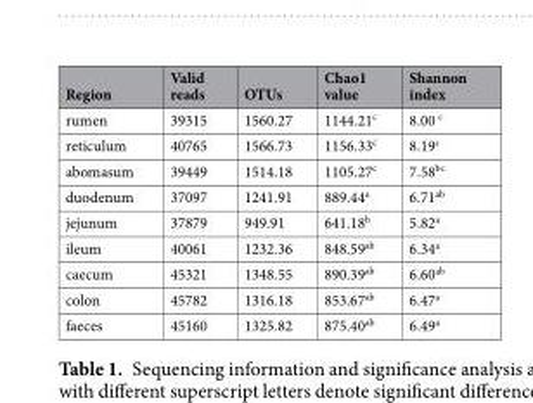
<table><thead><tr><td>Region</td><td>Valid reads</td><td>OTUs</td><td>Chao1 value</td><td>Shannon index</td></tr></thead><tbody><tr><td>rumen</td><td>39315</td><td>1560.27</td><td>1144.21<sup>c</sup></td><td>8.00 <sup>c</sup></td></tr><tr><td>reticulum</td><td>40765</td><td>1566.73</td><td>1156.33<sup>c</sup></td><td>8.19<sup>c</sup></td></tr><tr><td>abomasum</td><td>39449</td><td>1514.18</td><td>1105.27<sup>c</sup></td><td>7.58<sup>bc</sup></td></tr><tr><td>duodenum</td><td>37097</td><td>1241.91</td><td>889.44<sup>a</sup></td><td>6.71<sup>ab</sup></td></tr><tr><td>jejunum</td><td>37879</td><td>949.91</td><td>641.18<sup>b</sup></td><td>5.82<sup>a</sup></td></tr><tr><td>ileum</td><td>40061</td><td>1232.36</td><td>848.59<sup>ab</sup></td><td>6.34<sup>a</sup></td></tr><tr><td>caecum</td><td>45321</td><td>1348.55</td><td>890.39<sup>ab</sup></td><td>6.60<sup>ab</sup></td></tr><tr><td>colon</td><td>45782</td><td>1316.18</td><td>853.67<sup>ab</sup></td><td>6.47<sup>a</sup></td></tr><tr><td>faeces</td><td>45160</td><td>1325.82</td><td>875.40<sup>ab</sup></td><td>6.49<sup>a</sup></td></tr></tbody></table>